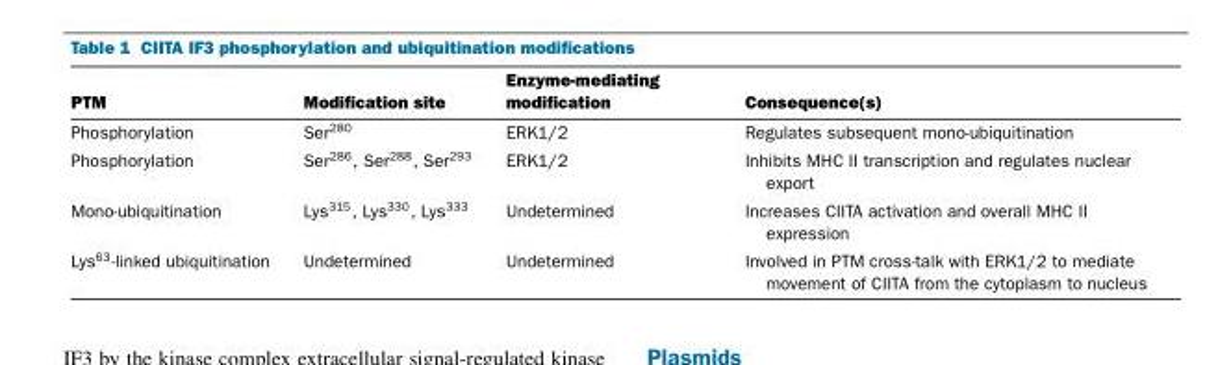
<table><thead><tr><td>PTM</td><td>Modification site</td><td>Enzyme-mediating modification</td><td>Consequence(s)</td></tr></thead><tbody><tr><td>Phosphorylation</td><td>Ser280</td><td>ERK1/2</td><td>Regulates subsequent mono-ubiquitination</td></tr><tr><td>Phosphorylation</td><td>Ser286, Ser288, Ser293</td><td>ERK1/2</td><td>Inhibits MHC II transcription and regulates nuclear export</td></tr><tr><td>Mono-ubiquitination</td><td>Lys315, Lys330, Lys333</td><td>Undetermined</td><td>Increases CIITA activation and overall MHC II expression</td></tr><tr><td>Lys63-linked ubiquitination</td><td>Undetermined</td><td>Undetermined</td><td>Involved in PTM cross-talk with ERK1/2 to mediate movement of CIITA from the cytoplasm to nucleus</td></tr></tbody></table>